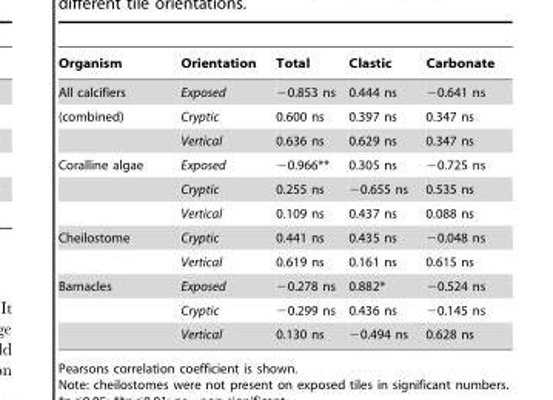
<table><thead><tr><td>Organism</td><td>Orientation</td><td>Total</td><td>Clastic</td><td>Carbonate</td></tr></thead><tbody><tr><td>All calcifiers</td><td>Exposed</td><td>−0.853 ns</td><td>0.444 ns</td><td>−0.641 ns</td></tr><tr><td rowspan="2">(combined)</td><td>Cryptic</td><td>0.600 ns</td><td>0.397 ns</td><td>0.347 ns</td></tr><tr><td>Vertical</td><td>0.636 ns</td><td>0.629 ns</td><td>0.347 ns</td></tr><tr><td rowspan="3">Coralline algae</td><td>Exposed</td><td>−0.966**</td><td>0.305 ns</td><td>−0.725 ns</td></tr><tr><td>Cryptic</td><td>0.255 ns</td><td>−0.655 ns</td><td>0.535 ns</td></tr><tr><td>Vertical</td><td>0.109 ns</td><td>0.437 ns</td><td>0.088 ns</td></tr><tr><td rowspan="2">Cheilostome</td><td>Cryptic</td><td>0.441 ns</td><td>0.435 ns</td><td>−0.048 ns</td></tr><tr><td>Vertical</td><td>0.619 ns</td><td>0.161 ns</td><td>0.615 ns</td></tr><tr><td rowspan="3">Barnacles</td><td>Exposed</td><td>−0.278 ns</td><td>0.882*</td><td>−0.524 ns</td></tr><tr><td>Cryptic</td><td>−0.299 ns</td><td>0.436 ns</td><td>−0.145 ns</td></tr><tr><td>Vertical</td><td>0.130 ns</td><td>−0.494 ns</td><td>0.628 ns</td></tr></tbody></table>